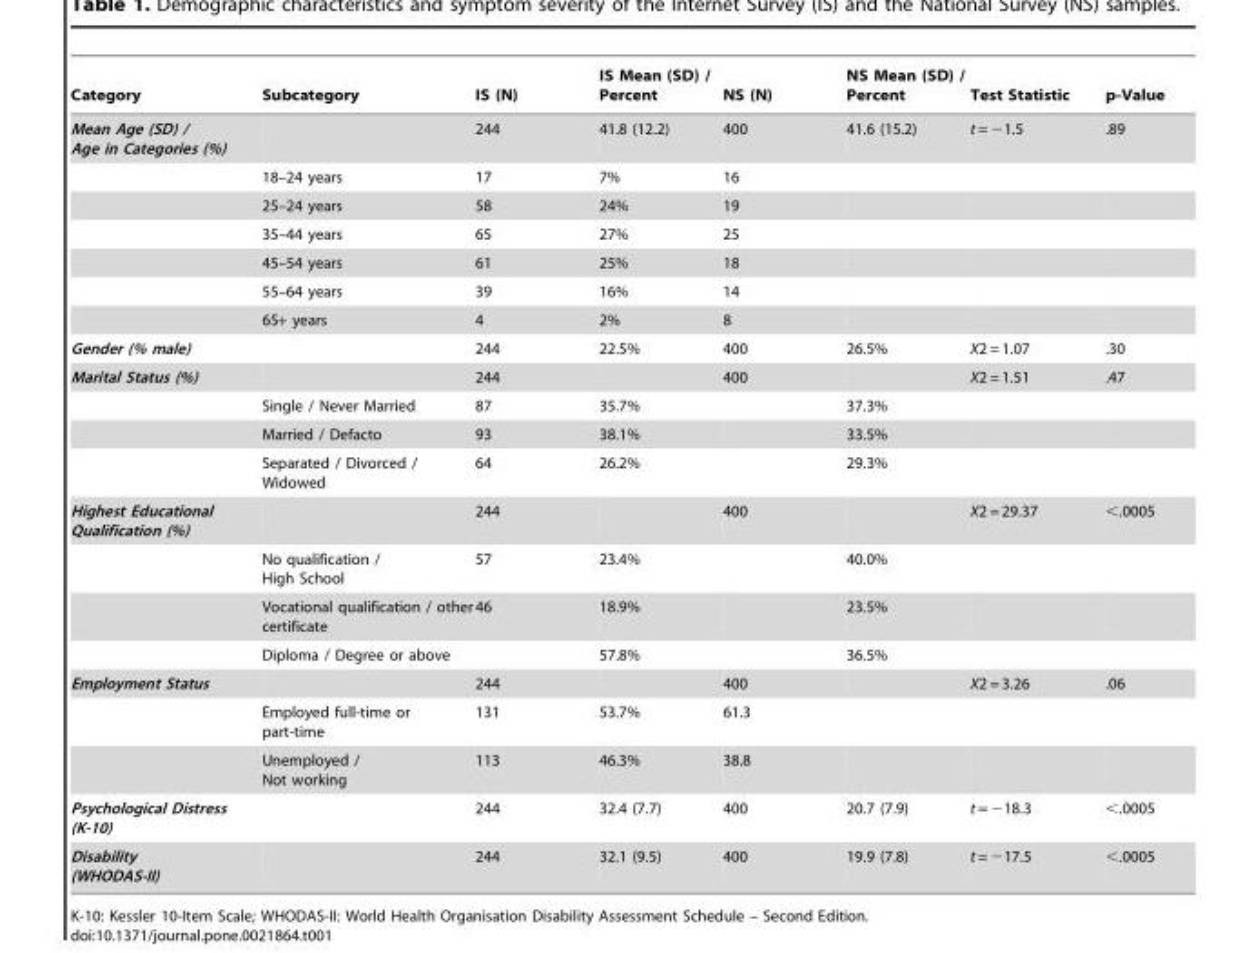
<table><thead><tr><td>Category</td><td>Subcategory</td><td>IS (N)</td><td>IS Mean (SD) / Percent</td><td>NS (N)</td><td>NS Mean (SD) / Percent</td><td>Test Statistic</td><td>p-Value</td></tr></thead><tbody><tr><td rowspan="7">Mean Age (SD) / Age in Categories (%)</td><td></td><td>244</td><td>41.8 (12.2)</td><td>400</td><td>41.6 (15.2)</td><td>t = −1.5</td><td>.89</td></tr><tr><td>18–24 years</td><td>17</td><td>7%</td><td>16</td><td></td><td></td><td></td></tr><tr><td>25–24 years</td><td>58</td><td>24%</td><td>19</td><td></td><td></td><td></td></tr><tr><td>35–44 years</td><td>65</td><td>27%</td><td>25</td><td></td><td></td><td></td></tr><tr><td>45–54 years</td><td>61</td><td>25%</td><td>18</td><td></td><td></td><td></td></tr><tr><td>55–64 years</td><td>39</td><td>16%</td><td>14</td><td></td><td></td><td></td></tr><tr><td>65+ years</td><td>4</td><td>2%</td><td>8</td><td></td><td></td><td></td></tr><tr><td>Gender (% male)</td><td></td><td>244</td><td>22.5%</td><td>400</td><td>26.5%</td><td>X2 = 1.07</td><td>.30</td></tr><tr><td rowspan="4">Marital Status (%)</td><td></td><td>244</td><td></td><td>400</td><td></td><td>X2 = 1.51</td><td>.47</td></tr><tr><td>Single / Never Married</td><td>87</td><td>35.7%</td><td></td><td>37.3%</td><td></td><td></td></tr><tr><td>Married / Defacto</td><td>93</td><td>38.1%</td><td></td><td>33.5%</td><td></td><td></td></tr><tr><td>Separated / Divorced / Widowed</td><td>64</td><td>26.2%</td><td></td><td>29.3%</td><td></td><td></td></tr><tr><td rowspan="4">Highest Educational Qualification (%)</td><td></td><td>244</td><td></td><td>400</td><td></td><td>X2 = 29.37</td><td>&lt;.0005</td></tr><tr><td>No qualification / High School</td><td>57</td><td>23.4%</td><td></td><td>40.0%</td><td></td><td></td></tr><tr><td>Vocational qualification / other certificate</td><td>46</td><td>18.9%</td><td></td><td>23.5%</td><td></td><td></td></tr><tr><td>Diploma / Degree or above</td><td></td><td>57.8%</td><td></td><td>36.5%</td><td></td><td></td></tr><tr><td rowspan="3">Employment Status</td><td></td><td>244</td><td></td><td>400</td><td></td><td>X2 = 3.26</td><td>.06</td></tr><tr><td>Employed full-time or part-time</td><td>131</td><td>53.7%</td><td>61.3</td><td></td><td></td><td></td></tr><tr><td>Unemployed / Not working</td><td>113</td><td>46.3%</td><td>38.8</td><td></td><td></td><td></td></tr><tr><td>Psychological Distress (K-10)</td><td></td><td>244</td><td>32.4 (7.7)</td><td>400</td><td>20.7 (7.9)</td><td>t = −18.3</td><td>&lt;.0005</td></tr><tr><td>Disability (WHODAS-II)</td><td></td><td>244</td><td>32.1 (9.5)</td><td>400</td><td>19.9 (7.8)</td><td>t = −17.5</td><td>&lt;.0005</td></tr></tbody></table>